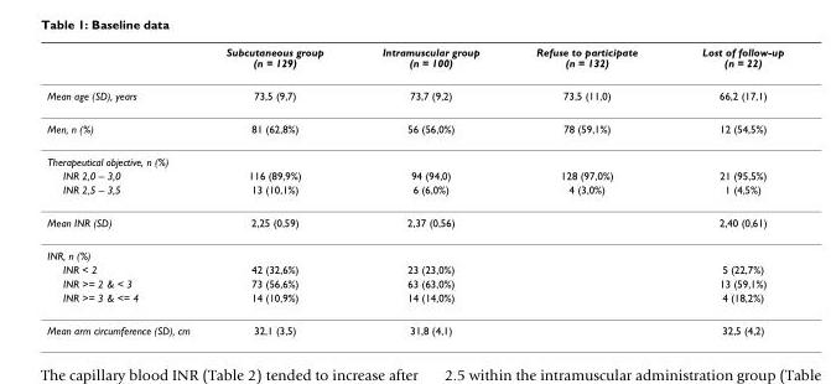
<table><thead><tr><td></td><td>Subcutaneous group (n = 129)</td><td>Intramuscular group (n = 100)</td><td>Refuse to participate (n = 132)</td><td>Lost of follow-up (n = 22)</td></tr></thead><tbody><tr><td>Mean age (SD), years</td><td>73,5 (9,7)</td><td>73,7 (9,2)</td><td>73,5 (11,0)</td><td>66,2 (17,1)</td></tr><tr><td>Men, n (%)</td><td>81 (62,8%)</td><td>56 (56,0%)</td><td>78 (59,1%)</td><td>12 (54,5%)</td></tr><tr><td colspan="5">Therapeutical objective, n (%)</td></tr><tr><td>INR 2,0 – 3,0</td><td>116 (89,9%)</td><td>94 (94,0)</td><td>128 (97,0%)</td><td>21 (95,5%)</td></tr><tr><td>INR 2,5 – 3,5</td><td>13 (10,1%)</td><td>6 (6,0%)</td><td>4 (3,0%)</td><td>1 (4,5%)</td></tr><tr><td>Mean INR (SD)</td><td>2,25 (0,59)</td><td>2,37 (0,56)</td><td></td><td>2,40 (0,61)</td></tr><tr><td colspan="5">INR, n (%)</td></tr><tr><td>INR &lt; 2</td><td>42 (32,6%)</td><td>23 (23,0%)</td><td></td><td>5 (22,7%)</td></tr><tr><td>INR &gt;= 2 &amp; &lt; 3</td><td>73 (56,6%)</td><td>63 (63,0%)</td><td></td><td>13 (59,1%)</td></tr><tr><td>INR &gt;= 3 &amp; &lt;= 4</td><td>14 (10,9%)</td><td>14 (14,0%)</td><td></td><td>4 (18,2%)</td></tr><tr><td>Mean arm circumference (SD), cm</td><td>32,1 (3,5)</td><td>31,8 (4,1)</td><td></td><td>32,5 (4,2)</td></tr></tbody></table>